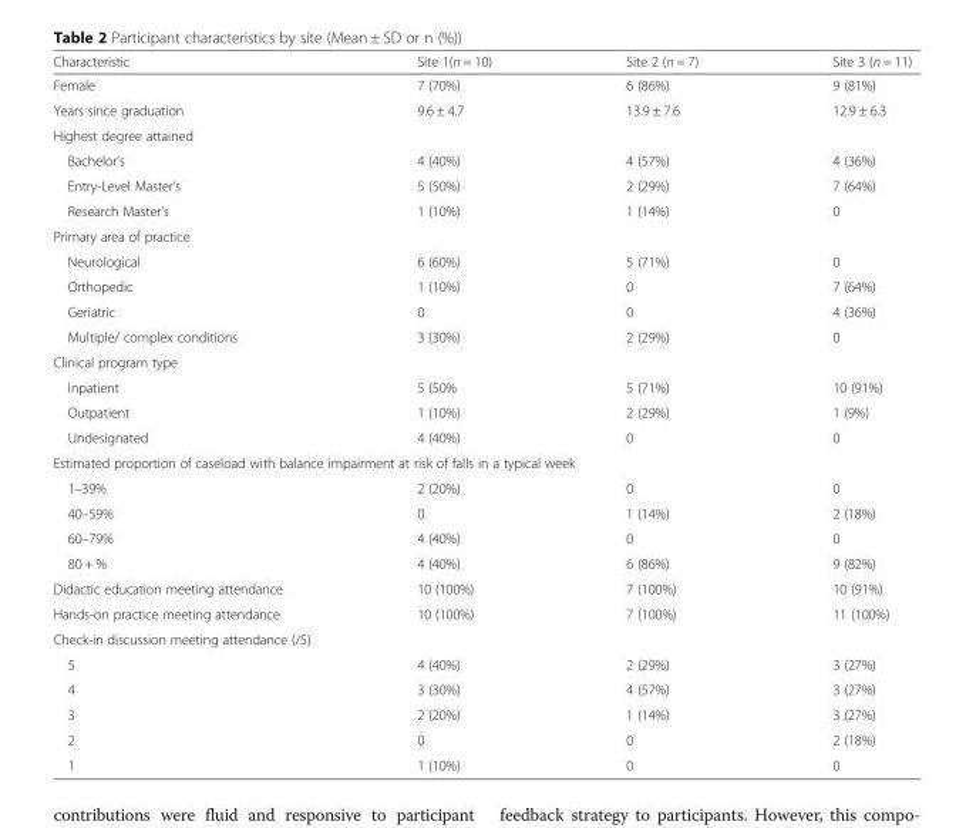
<table><thead><tr><td>Characteristic</td><td>Site 1(n = 10)</td><td>Site 2 (n = 7)</td><td>Site 3 (n = 11)</td></tr></thead><tbody><tr><td>Female</td><td>7 (70%)</td><td>6 (86%)</td><td>9 (81%)</td></tr><tr><td>Years since graduation</td><td>9.6 ± 4.7</td><td>13.9 ± 7.6</td><td>12.9 ± 6.3</td></tr><tr><td colspan="4">Highest degree attained</td></tr><tr><td>Bachelor’s</td><td>4 (40%)</td><td>4 (57%)</td><td>4 (36%)</td></tr><tr><td>Entry-Level Master’s</td><td>5 (50%)</td><td>2 (29%)</td><td>7 (64%)</td></tr><tr><td>Research Master’s</td><td>1 (10%)</td><td>1 (14%)</td><td>0</td></tr><tr><td colspan="4">Primary area of practice</td></tr><tr><td>Neurological</td><td>6 (60%)</td><td>5 (71%)</td><td>0</td></tr><tr><td>Orthopedic</td><td>1 (10%)</td><td>0</td><td>7 (64%)</td></tr><tr><td>Geriatric</td><td>0</td><td>0</td><td>4 (36%)</td></tr><tr><td>Multiple/ complex conditions</td><td>3 (30%)</td><td>2 (29%)</td><td>0</td></tr><tr><td colspan="4">Clinical program type</td></tr><tr><td>Inpatient</td><td>5 (50%</td><td>5 (71%)</td><td>10 (91%)</td></tr><tr><td>Outpatient</td><td>1 (10%)</td><td>2 (29%)</td><td>1 (9%)</td></tr><tr><td>Undesignated</td><td>4 (40%)</td><td>0</td><td>0</td></tr><tr><td colspan="4">Estimated proportion of caseload with balance impairment at risk of falls in a typical week</td></tr><tr><td>1–39%</td><td>2 (20%)</td><td>0</td><td>0</td></tr><tr><td>40–59%</td><td>0</td><td>1 (14%)</td><td>2 (18%)</td></tr><tr><td>60–79%</td><td>4 (40%)</td><td>0</td><td>0</td></tr><tr><td>80 + %</td><td>4 (40%)</td><td>6 (86%)</td><td>9 (82%)</td></tr><tr><td>Didactic education meeting attendance</td><td>10 (100%)</td><td>7 (100%)</td><td>10 (91%)</td></tr><tr><td>Hands-on practice meeting attendance</td><td>10 (100%)</td><td>7 (100%)</td><td>11 (100%)</td></tr><tr><td colspan="4">Check-in discussion meeting attendance (/5)</td></tr><tr><td>5</td><td>4 (40%)</td><td>2 (29%)</td><td>3 (27%)</td></tr><tr><td>4</td><td>3 (30%)</td><td>4 (57%)</td><td>3 (27%)</td></tr><tr><td>3</td><td>2 (20%)</td><td>1 (14%)</td><td>3 (27%)</td></tr><tr><td>2</td><td>0</td><td>0</td><td>2 (18%)</td></tr><tr><td>1</td><td>1 (10%)</td><td>0</td><td>0</td></tr></tbody></table>